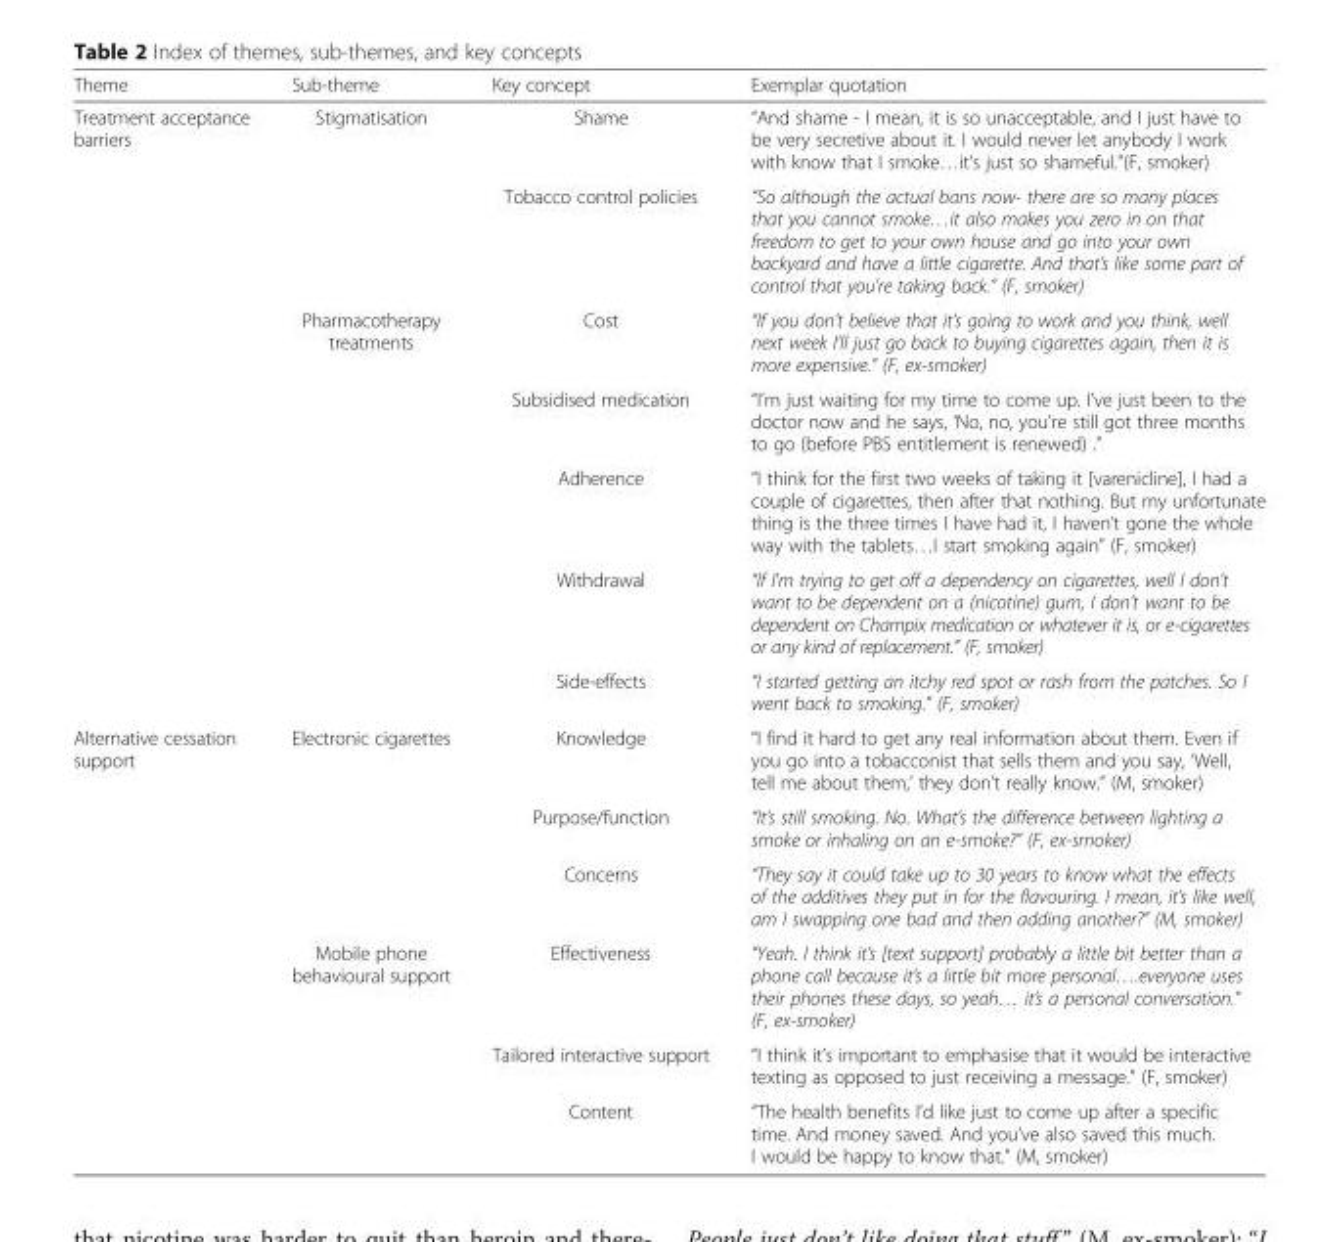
<table><thead><tr><td>Theme</td><td>Sub-theme</td><td>Key concept</td><td>Exemplar quotation</td></tr></thead><tbody><tr><td rowspan="7">Treatment acceptance barriers</td><td rowspan="2">Stigmatisation</td><td>Shame</td><td>“And shame - I mean, it is so unacceptable, and I just have to be very secretive about it. I would never let anybody I work with know that I smoke…it’s just so shameful.”(F, smoker)</td></tr><tr><td>Tobacco control policies</td><td>“So although the actual bans now- there are so many places that you cannot smoke…it also makes you zero in on that freedom to get to your own house and go into your own backyard and have a little cigarette. And that’s like some part of control that you’re taking back.” (F, smoker)</td></tr><tr><td rowspan="5">Pharmacotherapy treatments</td><td>Cost</td><td>“If you don’t believe that it’s going to work and you think, well next week I’ll just go back to buying cigarettes again, then it is more expensive.” (F, ex-smoker)</td></tr><tr><td>Subsidised medication</td><td>“I’m just waiting for my time to come up. I’ve just been to the doctor now and he says, ‘No, no, you’re still got three months to go (before PBS entitlement is renewed) .”</td></tr><tr><td>Adherence</td><td>“I think for the first two weeks of taking it [varenicline], I had a couple of cigarettes, then after that nothing. But my unfortunate thing is the three times I have had it, I haven’t gone the whole way with the tablets…I start smoking again” (F, smoker)</td></tr><tr><td>Withdrawal</td><td>“If I&#x27;m trying to get off a dependency on cigarettes, well I don’t want to be dependent on a (nicotine) gum, I don’t want to be dependent on Champix medication or whatever it is, or e-cigarettes or any kind of replacement.” (F, smoker)</td></tr><tr><td>Side-effects</td><td>“I started getting an itchy red spot or rash from the patches. So I went back to smoking.” (F, smoker)</td></tr><tr><td rowspan="6">Alternative cessation support</td><td rowspan="3">Electronic cigarettes</td><td>Knowledge</td><td>“I find it hard to get any real information about them. Even if you go into a tobacconist that sells them and you say, ‘Well, tell me about them,’ they don’t really know.” (M, smoker)</td></tr><tr><td>Purpose/function</td><td>“It’s still smoking. No. What’s the difference between lighting a smoke or inhaling on an e-smoke?” (F, ex-smoker)</td></tr><tr><td>Concerns</td><td>“They say it could take up to 30 years to know what the effects of the additives they put in for the flavouring. I mean, it’s like well, am I swapping one bad and then adding another?” (M, smoker)</td></tr><tr><td rowspan="3">Mobile phone behavioural support</td><td>Effectiveness</td><td>“Yeah. I think it’s [text support] probably a little bit better than a phone call because it’s a little bit more personal….everyone uses their phones these days, so yeah… it’s a personal conversation.” (F, ex-smoker)</td></tr><tr><td>Tailored interactive support</td><td>“I think it’s important to emphasise that it would be interactive texting as opposed to just receiving a message.” (F, smoker)</td></tr><tr><td>Content</td><td>“The health benefits I’d like just to come up after a specific time. And money saved. And you’ve also saved this much. I would be happy to know that.” (M, smoker)</td></tr></tbody></table>